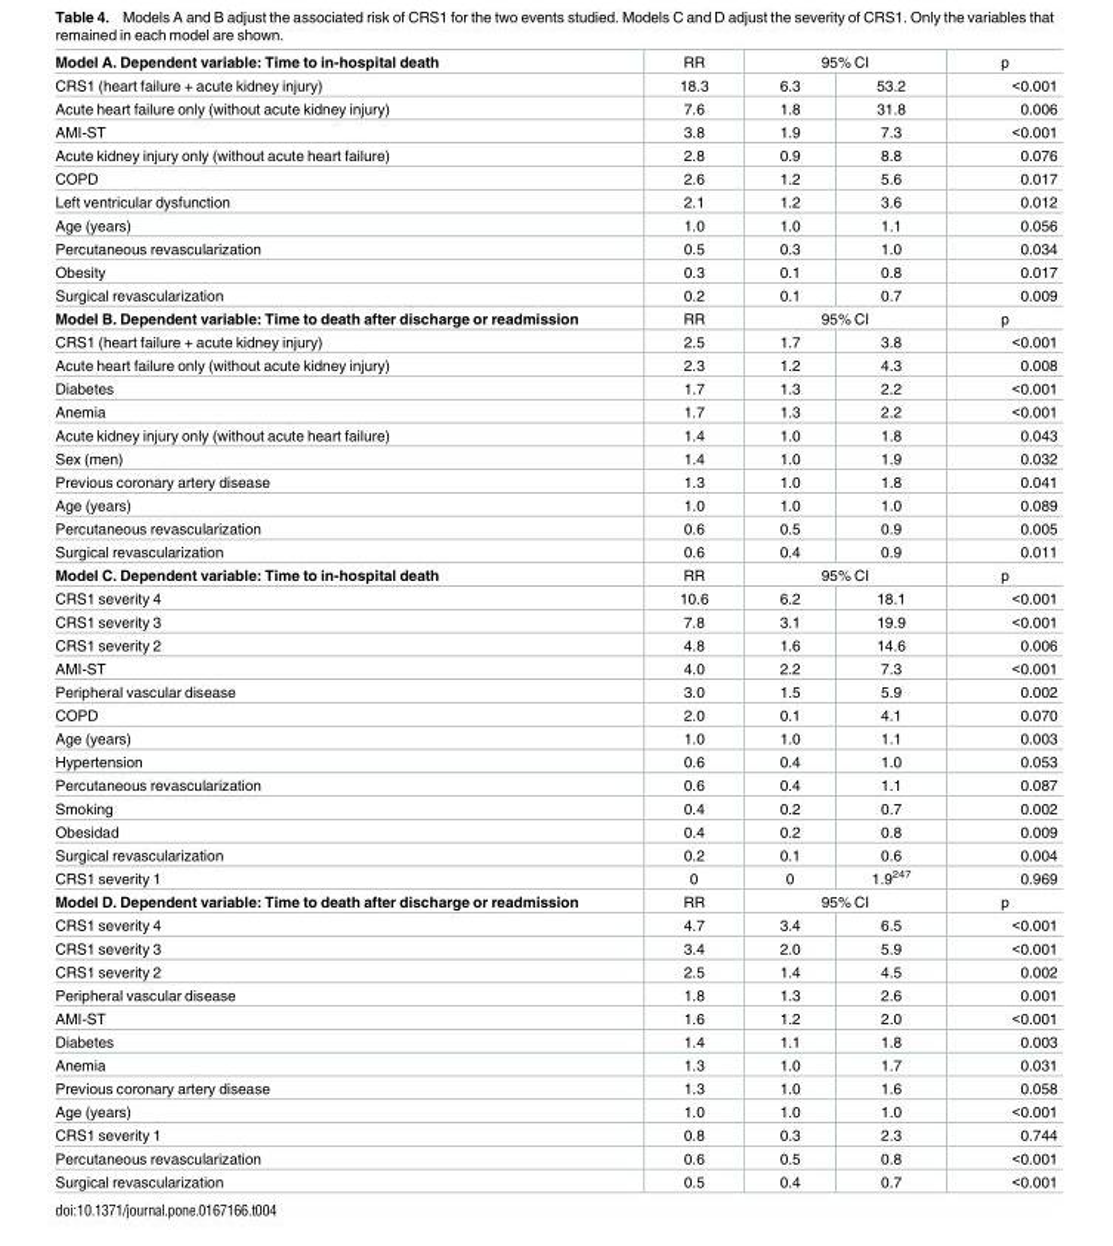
<table><tbody><tr><td>Model A. Dependent variable: Time to in-hospital death</td><td>RR</td><td colspan="2">95% CI</td><td>p</td></tr><tr><td>CRS1 (heart failure + acute kidney injury)</td><td>18.3</td><td>6.3</td><td>53.2</td><td>&lt;0.001</td></tr><tr><td>Acute heart failure only (without acute kidney injury)</td><td>7.6</td><td>1.8</td><td>31.8</td><td>0.006</td></tr><tr><td>AMI-ST</td><td>3.8</td><td>1.9</td><td>7.3</td><td>&lt;0.001</td></tr><tr><td>Acute kidney injury only (without acute heart failure)</td><td>2.8</td><td>0.9</td><td>8.8</td><td>0.076</td></tr><tr><td>COPD</td><td>2.6</td><td>1.2</td><td>5.6</td><td>0.017</td></tr><tr><td>Left ventricular dysfunction</td><td>2.1</td><td>1.2</td><td>3.6</td><td>0.012</td></tr><tr><td>Age (years)</td><td>1.0</td><td>1.0</td><td>1.1</td><td>0.056</td></tr><tr><td>Percutaneous revascularization</td><td>0.5</td><td>0.3</td><td>1.0</td><td>0.034</td></tr><tr><td>Obesity</td><td>0.3</td><td>0.1</td><td>0.8</td><td>0.017</td></tr><tr><td>Surgical revascularization</td><td>0.2</td><td>0.1</td><td>0.7</td><td>0.009</td></tr><tr><td>Model B. Dependent variable: Time to death after discharge or readmission</td><td>RR</td><td colspan="2">95% CI</td><td>p</td></tr><tr><td>CRS1 (heart failure + acute kidney injury)</td><td>2.5</td><td>1.7</td><td>3.8</td><td>&lt;0.001</td></tr><tr><td>Acute heart failure only (without acute kidney injury)</td><td>2.3</td><td>1.2</td><td>4.3</td><td>0.008</td></tr><tr><td>Diabetes</td><td>1.7</td><td>1.3</td><td>2.2</td><td>&lt;0.001</td></tr><tr><td>Anemia</td><td>1.7</td><td>1.3</td><td>2.2</td><td>&lt;0.001</td></tr><tr><td>Acute kidney injury only (without acute heart failure)</td><td>1.4</td><td>1.0</td><td>1.8</td><td>0.043</td></tr><tr><td>Sex (men)</td><td>1.4</td><td>1.0</td><td>1.9</td><td>0.032</td></tr><tr><td>Previous coronary artery disease</td><td>1.3</td><td>1.0</td><td>1.8</td><td>0.041</td></tr><tr><td>Age (years)</td><td>1.0</td><td>1.0</td><td>1.0</td><td>0.089</td></tr><tr><td>Percutaneous revascularization</td><td>0.6</td><td>0.5</td><td>0.9</td><td>0.005</td></tr><tr><td>Surgical revascularization</td><td>0.6</td><td>0.4</td><td>0.9</td><td>0.011</td></tr><tr><td>Model C. Dependent variable: Time to in-hospital death</td><td>RR</td><td colspan="2">95% CI</td><td>p</td></tr><tr><td>CRS1 severity 4</td><td>10.6</td><td>6.2</td><td>18.1</td><td>&lt;0.001</td></tr><tr><td>CRS1 severity 3</td><td>7.8</td><td>3.1</td><td>19.9</td><td>&lt;0.001</td></tr><tr><td>CRS1 severity 2</td><td>4.8</td><td>1.6</td><td>14.6</td><td>0.006</td></tr><tr><td>AMI-ST</td><td>4.0</td><td>2.2</td><td>7.3</td><td>&lt;0.001</td></tr><tr><td>Peripheral vascular disease</td><td>3.0</td><td>1.5</td><td>5.9</td><td>0.002</td></tr><tr><td>COPD</td><td>2.0</td><td>0.1</td><td>4.1</td><td>0.070</td></tr><tr><td>Age (years)</td><td>1.0</td><td>1.0</td><td>1.1</td><td>0.003</td></tr><tr><td>Hypertension</td><td>0.6</td><td>0.4</td><td>1.0</td><td>0.053</td></tr><tr><td>Percutaneous revascularization</td><td>0.6</td><td>0.4</td><td>1.1</td><td>0.087</td></tr><tr><td>Smoking</td><td>0.4</td><td>0.2</td><td>0.7</td><td>0.002</td></tr><tr><td>Obesidad</td><td>0.4</td><td>0.2</td><td>0.8</td><td>0.009</td></tr><tr><td>Surgical revascularization</td><td>0.2</td><td>0.1</td><td>0.6</td><td>0.004</td></tr><tr><td>CRS1 severity 1</td><td>0</td><td>0</td><td>1.9<sup>247</sup></td><td>0.969</td></tr><tr><td>Model D. Dependent variable: Time to death after discharge or readmission</td><td>RR</td><td colspan="2">95% CI</td><td>p</td></tr><tr><td>CRS1 severity 4</td><td>4.7</td><td>3.4</td><td>6.5</td><td>&lt;0.001</td></tr><tr><td>CRS1 severity 3</td><td>3.4</td><td>2.0</td><td>5.9</td><td>&lt;0.001</td></tr><tr><td>CRS1 severity 2</td><td>2.5</td><td>1.4</td><td>4.5</td><td>0.002</td></tr><tr><td>Peripheral vascular disease</td><td>1.8</td><td>1.3</td><td>2.6</td><td>0.001</td></tr><tr><td>AMI-ST</td><td>1.6</td><td>1.2</td><td>2.0</td><td>&lt;0.001</td></tr><tr><td>Diabetes</td><td>1.4</td><td>1.1</td><td>1.8</td><td>0.003</td></tr><tr><td>Anemia</td><td>1.3</td><td>1.0</td><td>1.7</td><td>0.031</td></tr><tr><td>Previous coronary artery disease</td><td>1.3</td><td>1.0</td><td>1.6</td><td>0.058</td></tr><tr><td>Age (years)</td><td>1.0</td><td>1.0</td><td>1.0</td><td>&lt;0.001</td></tr><tr><td>CRS1 severity 1</td><td>0.8</td><td>0.3</td><td>2.3</td><td>0.744</td></tr><tr><td>Percutaneous revascularization</td><td>0.6</td><td>0.5</td><td>0.8</td><td>&lt;0.001</td></tr><tr><td>Surgical revascularization</td><td>0.5</td><td>0.4</td><td>0.7</td><td>&lt;0.001</td></tr></tbody></table>